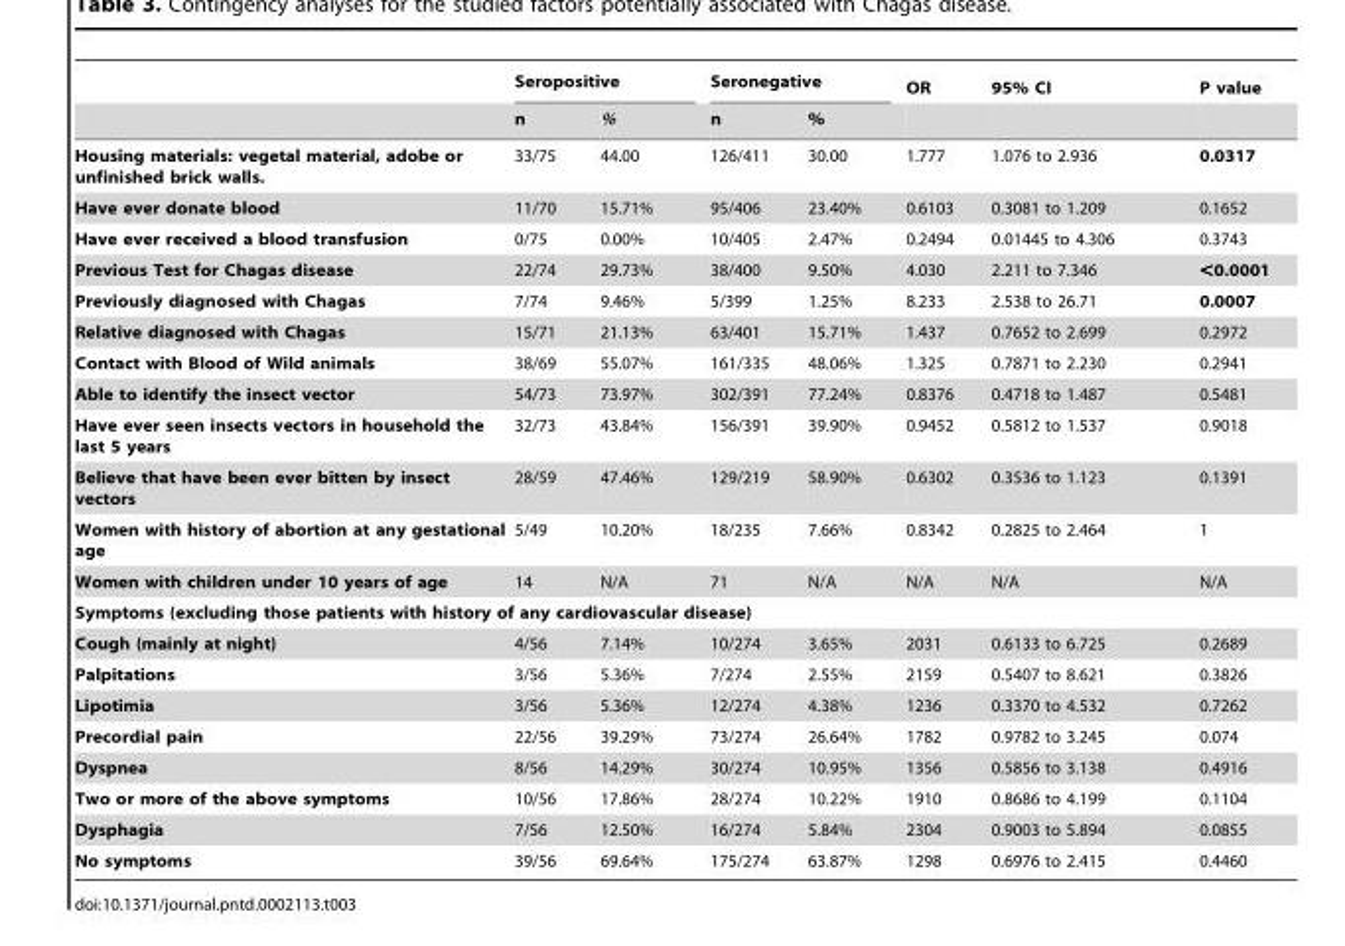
<table><thead><tr><td rowspan="2"></td><td colspan="2">Seropositive</td><td colspan="2">Seronegative</td><td rowspan="2">OR</td><td rowspan="2">95% CI</td><td rowspan="2">P value</td></tr><tr><td>n</td><td>%</td><td>n</td><td>%</td></tr></thead><tbody><tr><td>Housing materials: vegetal material, adobe or unfinished brick walls.</td><td>33/75</td><td>44.00</td><td>126/411</td><td>30.00</td><td>1.777</td><td>1.076 to 2.936</td><td>0.0317</td></tr><tr><td>Have ever donate blood</td><td>11/70</td><td>15.71%</td><td>95/406</td><td>23.40%</td><td>0.6103</td><td>0.3081 to 1.209</td><td>0.1652</td></tr><tr><td>Have ever received a blood transfusion</td><td>0/75</td><td>0.00%</td><td>10/405</td><td>2.47%</td><td>0.2494</td><td>0.01445 to 4.306</td><td>0.3743</td></tr><tr><td>Previous Test for Chagas disease</td><td>22/74</td><td>29.73%</td><td>38/400</td><td>9.50%</td><td>4.030</td><td>2.211 to 7.346</td><td>&lt;0.0001</td></tr><tr><td>Previously diagnosed with Chagas</td><td>7/74</td><td>9.46%</td><td>5/399</td><td>1.25%</td><td>8.233</td><td>2.538 to 26.71</td><td>0.0007</td></tr><tr><td>Relative diagnosed with Chagas</td><td>15/71</td><td>21.13%</td><td>63/401</td><td>15.71%</td><td>1.437</td><td>0.7652 to 2.699</td><td>0.2972</td></tr><tr><td>Contact with Blood of Wild animals</td><td>38/69</td><td>55.07%</td><td>161/335</td><td>48.06%</td><td>1.325</td><td>0.7871 to 2.230</td><td>0.2941</td></tr><tr><td>Able to identify the insect vector</td><td>54/73</td><td>73.97%</td><td>302/391</td><td>77.24%</td><td>0.8376</td><td>0.4718 to 1.487</td><td>0.5481</td></tr><tr><td>Have ever seen insects vectors in household the last 5 years</td><td>32/73</td><td>43.84%</td><td>156/391</td><td>39.90%</td><td>0.9452</td><td>0.5812 to 1.537</td><td>0.9018</td></tr><tr><td>Believe that have been ever bitten by insect vectors</td><td>28/59</td><td>47.46%</td><td>129/219</td><td>58.90%</td><td>0.6302</td><td>0.3536 to 1.123</td><td>0.1391</td></tr><tr><td>Women with history of abortion at any gestational age</td><td>5/49</td><td>10.20%</td><td>18/235</td><td>7.66%</td><td>0.8342</td><td>0.2825 to 2.464</td><td>1</td></tr><tr><td>Women with children under 10 years of age</td><td>14</td><td>N/A</td><td>71</td><td>N/A</td><td>N/A</td><td>N/A</td><td>N/A</td></tr><tr><td colspan="8">Symptoms (excluding those patients with history of any cardiovascular disease)</td></tr><tr><td>Cough (mainly at night)</td><td>4/56</td><td>7.14%</td><td>10/274</td><td>3.65%</td><td>2031</td><td>0.6133 to 6.725</td><td>0.2689</td></tr><tr><td>Palpitations</td><td>3/56</td><td>5.36%</td><td>7/274</td><td>2.55%</td><td>2159</td><td>0.5407 to 8.621</td><td>0.3826</td></tr><tr><td>Lipotimia</td><td>3/56</td><td>5.36%</td><td>12/274</td><td>4.38%</td><td>1236</td><td>0.3370 to 4.532</td><td>0.7262</td></tr><tr><td>Precordial pain</td><td>22/56</td><td>39.29%</td><td>73/274</td><td>26.64%</td><td>1782</td><td>0.9782 to 3.245</td><td>0.074</td></tr><tr><td>Dyspnea</td><td>8/56</td><td>14.29%</td><td>30/274</td><td>10.95%</td><td>1356</td><td>0.5856 to 3.138</td><td>0.4916</td></tr><tr><td>Two or more of the above symptoms</td><td>10/56</td><td>17.86%</td><td>28/274</td><td>10.22%</td><td>1910</td><td>0.8686 to 4.199</td><td>0.1104</td></tr><tr><td>Dysphagia</td><td>7/56</td><td>12.50%</td><td>16/274</td><td>5.84%</td><td>2304</td><td>0.9003 to 5.894</td><td>0.0855</td></tr><tr><td>No symptoms</td><td>39/56</td><td>69.64%</td><td>175/274</td><td>63.87%</td><td>1298</td><td>0.6976 to 2.415</td><td>0.4460</td></tr></tbody></table>